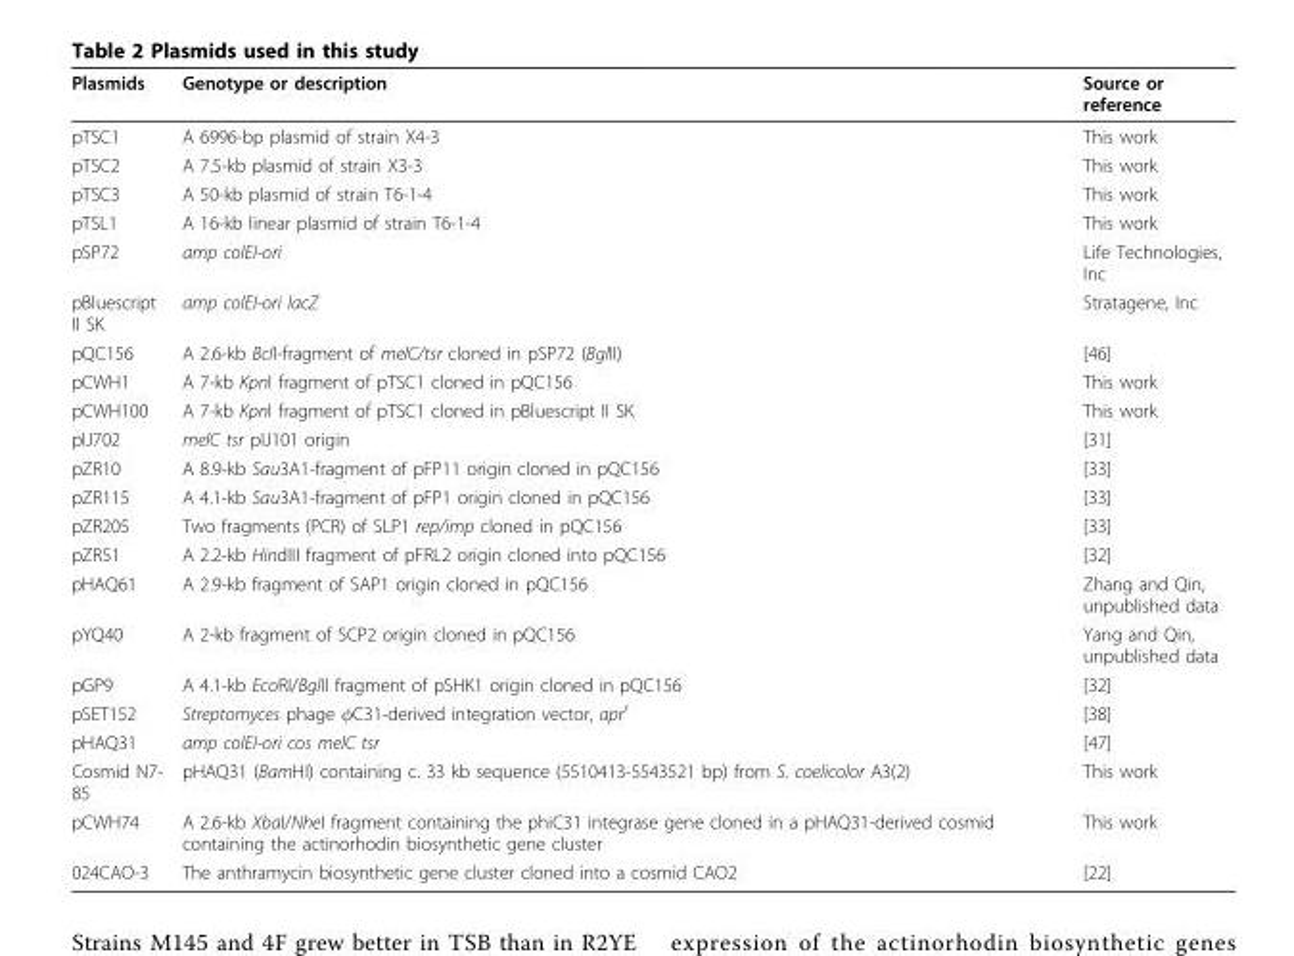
<table><thead><tr><td>Plasmids</td><td>Genotype or description</td><td>Source or reference</td></tr></thead><tbody><tr><td>pTSC1</td><td>A 6996-bp plasmid of strain X4-3</td><td>This work</td></tr><tr><td>pTSC2</td><td>A 7.5-kb plasmid of strain X3-3</td><td>This work</td></tr><tr><td>pTSC3</td><td>A 50-kb plasmid of strain T6-1-4</td><td>This work</td></tr><tr><td>pTSL1</td><td>A 16-kb linear plasmid of strain T6-1-4</td><td>This work</td></tr><tr><td>pSP72</td><td>amp colEI-ori</td><td>Life Technologies, Inc</td></tr><tr><td>pBluescript II SK</td><td>amp colEI-ori lacZ</td><td>Stratagene, Inc</td></tr><tr><td>pQC156</td><td>A 2.6-kb BclI-fragment of melC/tsr cloned in pSP72 (BglII)</td><td>[46]</td></tr><tr><td>pCWH1</td><td>A 7-kb KpnI fragment of pTSC1 cloned in pQC156</td><td>This work</td></tr><tr><td>pCWH100</td><td>A 7-kb KpnI fragment of pTSC1 cloned in pBluescript II SK</td><td>This work</td></tr><tr><td>pIJ702</td><td>melC tsr pIJ101 origin</td><td>[31]</td></tr><tr><td>pZR10</td><td>A 8.9-kb Sau3A1-fragment of pFP11 origin cloned in pQC156</td><td>[33]</td></tr><tr><td>pZR115</td><td>A 4.1-kb Sau3A1-fragment of pFP1 origin cloned in pQC156</td><td>[33]</td></tr><tr><td>pZR205</td><td>Two fragments (PCR) of SLP1 rep/imp cloned in pQC156</td><td>[33]</td></tr><tr><td>pZR51</td><td>A 2.2-kb HindIII fragment of pFRL2 origin cloned into pQC156</td><td>[32]</td></tr><tr><td>pHAQ61</td><td>A 2.9-kb fragment of SAP1 origin cloned in pQC156</td><td>Zhang and Qin, unpublished data</td></tr><tr><td>pYQ40</td><td>A 2-kb fragment of SCP2 origin cloned in pQC156</td><td>Yang and Qin, unpublished data</td></tr><tr><td>pGP9</td><td>A 4.1-kb EcoRI/BglII fragment of pSHK1 origin cloned in pQC156</td><td>[32]</td></tr><tr><td>pSET152</td><td>Streptomyces phage φC31-derived integration vector, apr<sup>r</sup></td><td>[38]</td></tr><tr><td>pHAQ31</td><td>amp colEI-ori cos melC tsr</td><td>[47]</td></tr><tr><td>Cosmid N7- 85</td><td>pHAQ31 (BamHI) containing c. 33 kb sequence (5510413-5543521 bp) from S. coelicolor A3(2)</td><td>This work</td></tr><tr><td>pCWH74</td><td>A 2.6-kb XbaI/NheI fragment containing the phiC31 integrase gene cloned in a pHAQ31-derived cosmid containing the actinorhodin biosynthetic gene cluster</td><td>This work</td></tr><tr><td>024CAO-3</td><td>The anthramycin biosynthetic gene cluster cloned into a cosmid CAO2</td><td>[22]</td></tr></tbody></table>